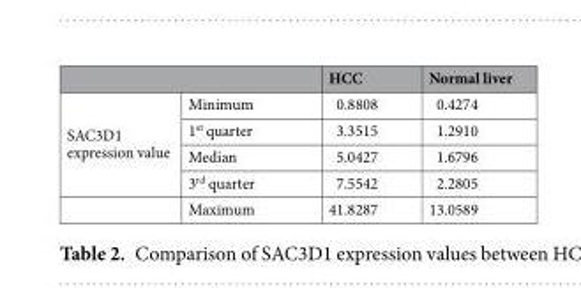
<table><thead><tr><td></td><td></td><td>HCC</td><td>Normal liver</td></tr></thead><tbody><tr><td rowspan="5">SAC3D1 expression value</td><td>Minimum</td><td>0.8808</td><td>0.4274</td></tr><tr><td>1<sup>st</sup> quarter</td><td>3.3515</td><td>1.2910</td></tr><tr><td>Median</td><td>5.0427</td><td>1.6796</td></tr><tr><td>3<sup>rd</sup> quarter</td><td>7.5542</td><td>2.2805</td></tr><tr><td>Maximum</td><td>41.8287</td><td>13.0589</td></tr></tbody></table>